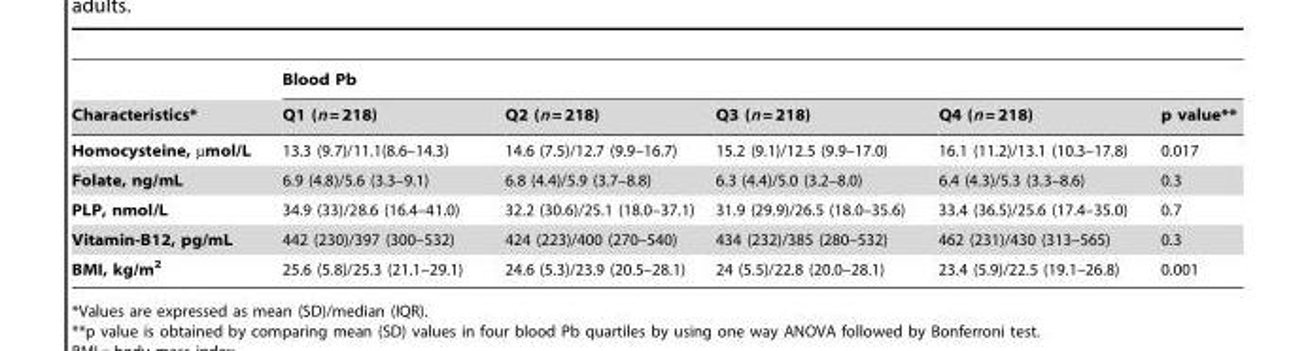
<table><thead><tr><td rowspan="2">Characteristics*</td><td colspan="5">Blood Pb</td></tr><tr><td>Q1 (n = 218)</td><td>Q2 (n = 218)</td><td>Q3 (n = 218)</td><td>Q4 (n = 218)</td><td>p value**</td></tr></thead><tbody><tr><td>Homocysteine, µmol/L</td><td>13.3 (9.7)/11.1(8.6–14.3)</td><td>14.6 (7.5)/12.7 (9.9–16.7)</td><td>15.2 (9.1)/12.5 (9.9–17.0)</td><td>16.1 (11.2)/13.1 (10.3–17.8)</td><td>0.017</td></tr><tr><td>Folate, ng/mL</td><td>6.9 (4.8)/5.6 (3.3–9.1)</td><td>6.8 (4.4)/5.9 (3.7–8.8)</td><td>6.3 (4.4)/5.0 (3.2–8.0)</td><td>6.4 (4.3)/5.3 (3.3–8.6)</td><td>0.3</td></tr><tr><td>PLP, nmol/L</td><td>34.9 (33)/28.6 (16.4–41.0)</td><td>32.2 (30.6)/25.1 (18.0–37.1)</td><td>31.9 (29.9)/26.5 (18.0–35.6)</td><td>33.4 (36.5)/25.6 (17.4–35.0)</td><td>0.7</td></tr><tr><td>Vitamin-B12, pg/mL</td><td>442 (230)/397 (300–532)</td><td>424 (223)/400 (270–540)</td><td>434 (232)/385 (280–532)</td><td>462 (231)/430 (313–565)</td><td>0.3</td></tr><tr><td>BMI, kg/m<sup>2</sup></td><td>25.6 (5.8)/25.3 (21.1–29.1)</td><td>24.6 (5.3)/23.9 (20.5–28.1)</td><td>24 (5.5)/22.8 (20.0–28.1)</td><td>23.4 (5.9)/22.5 (19.1–26.8)</td><td>0.001</td></tr></tbody></table>